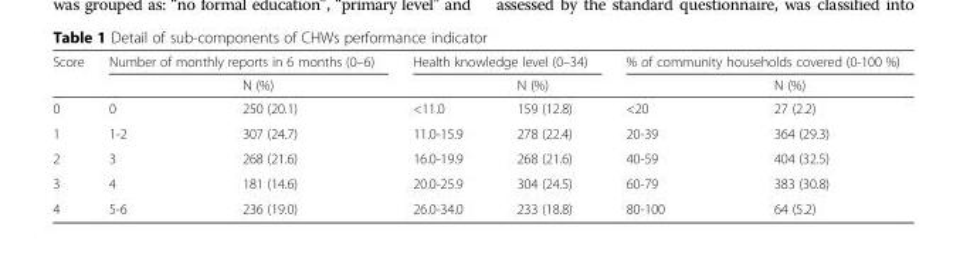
<table><thead><tr><td rowspan="2">Score</td><td colspan="2">Number of monthly reports in 6 months (0–6)</td><td colspan="2">Health knowledge level (0–34)</td><td colspan="2">% of community households covered (0-100 %)</td></tr><tr><td></td><td>N (%)</td><td></td><td>N (%)</td><td></td><td>N (%)</td></tr></thead><tbody><tr><td>0</td><td>0</td><td>250 (20.1)</td><td>&lt;11.0</td><td>159 (12.8)</td><td>&lt;20</td><td>27 (2.2)</td></tr><tr><td>1</td><td>1-2</td><td>307 (24.7)</td><td>11.0-15.9</td><td>278 (22.4)</td><td>20-39</td><td>364 (29.3)</td></tr><tr><td>2</td><td>3</td><td>268 (21.6)</td><td>16.0-19.9</td><td>268 (21.6)</td><td>40-59</td><td>404 (32.5)</td></tr><tr><td>3</td><td>4</td><td>181 (14.6)</td><td>20.0-25.9</td><td>304 (24.5)</td><td>60-79</td><td>383 (30.8)</td></tr><tr><td>4</td><td>5-6</td><td>236 (19.0)</td><td>26.0-34.0</td><td>233 (18.8)</td><td>80-100</td><td>64 (5.2)</td></tr></tbody></table>